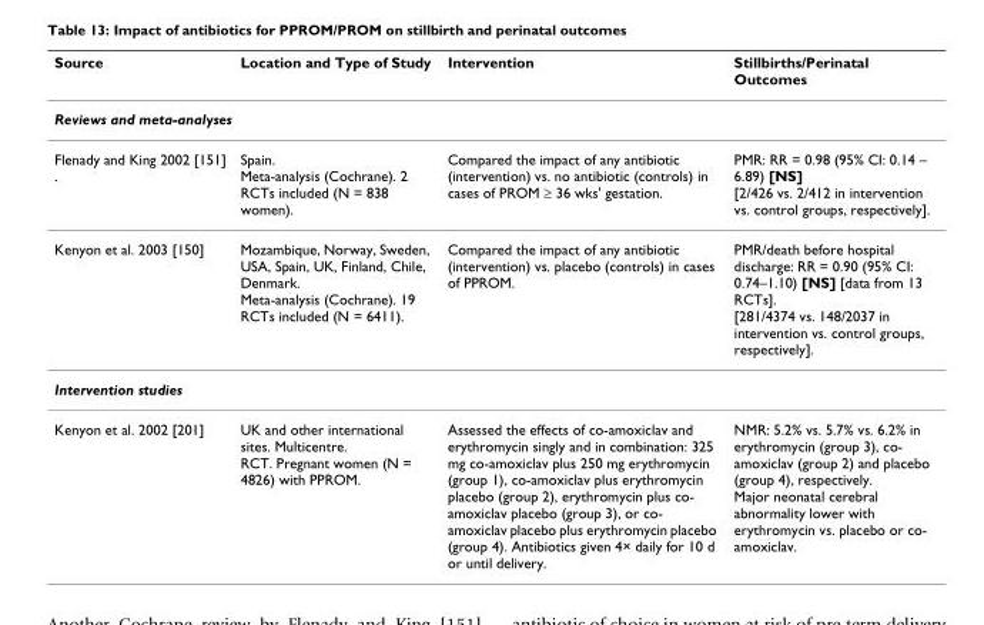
<table><thead><tr><td>Source</td><td>Location and Type of Study</td><td>Intervention</td><td>Stillbirths/Perinatal Outcomes</td></tr></thead><tbody><tr><td colspan="4">Reviews and meta-analyses</td></tr><tr><td>Flenady and King 2002 [151] .</td><td>Spain. Meta-analysis (Cochrane). 2 RCTs included (N = 838 women).</td><td>Compared the impact of any antibiotic (intervention) vs. no antibiotic (controls) in cases of PROM ≥ 36 wks&#x27; gestation.</td><td>PMR: RR = 0.98 (95% CI: 0.14 – 6.89) [NS] [2/426 vs. 2/412 in intervention vs. control groups, respectively].</td></tr><tr><td>Kenyon et al. 2003 [150]</td><td>Mozambique, Norway, Sweden, USA, Spain, UK, Finland, Chile, Denmark. Meta-analysis (Cochrane). 19 RCTs included (N = 6411).</td><td>Compared the impact of any antibiotic (intervention) vs. placebo (controls) in cases of PPROM.</td><td>PMR/death before hospital discharge: RR = 0.90 (95% CI: 0.74–1.10) [NS] [data from 13 RCTs]. [281/4374 vs. 148/2037 in intervention vs. control groups, respectively].</td></tr><tr><td colspan="4">Intervention studies</td></tr><tr><td>Kenyon et al. 2002 [201]</td><td>UK and other international sites. Multicentre. RCT. Pregnant women (N = 4826) with PPROM.</td><td>Assessed the effects of co-amoxiclav and erythromycin singly and in combination: 325 mg co-amoxiclav plus 250 mg erythromycin (group 1), co-amoxiclav plus erythromycin placebo (group 2), erythromycin plus co- amoxiclav placebo (group 3), or co- amoxiclav placebo plus erythromycin placebo (group 4). Antibiotics given 4× daily for 10 d or until delivery.</td><td>NMR: 5.2% vs. 5.7% vs. 6.2% in erythromycin (group 3), co- amoxiclav (group 2) and placebo (group 4), respectively. Major neonatal cerebral abnormality lower with erythromycin vs. placebo or co- amoxiclav.</td></tr></tbody></table>